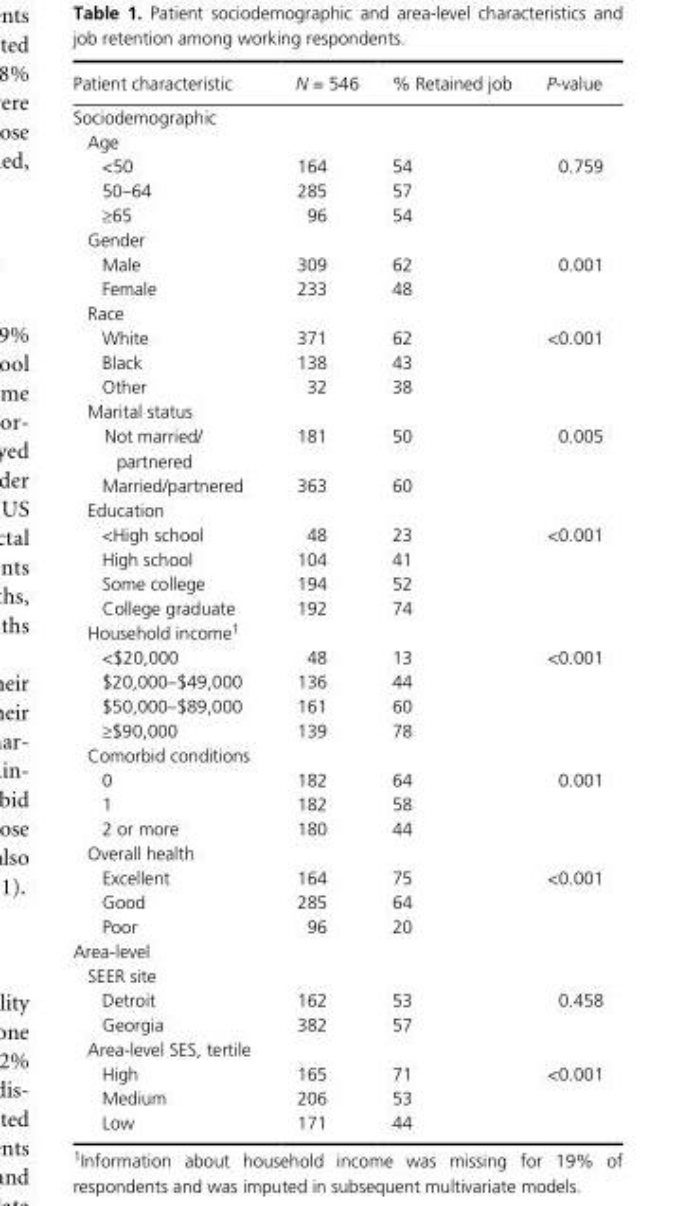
<table><thead><tr><td>Patient characteristic</td><td>N = 546</td><td>% Retained job</td><td>P- value</td></tr></thead><tbody><tr><td colspan="4">Sociodemographic</td></tr><tr><td colspan="4">Age</td></tr><tr><td>&lt;50</td><td>164</td><td>54</td><td rowspan="3">0.759</td></tr><tr><td>50–64</td><td>285</td><td>57</td></tr><tr><td>≥65</td><td>96</td><td>54</td></tr><tr><td colspan="4">Gender</td></tr><tr><td>Male</td><td>309</td><td>62</td><td rowspan="2">0.001</td></tr><tr><td>Female</td><td>233</td><td>48</td></tr><tr><td colspan="4">Race</td></tr><tr><td>White</td><td>371</td><td>62</td><td rowspan="3">&lt;0.001</td></tr><tr><td>Black</td><td>138</td><td>43</td></tr><tr><td>Other</td><td>32</td><td>38</td></tr><tr><td colspan="4">Marital status</td></tr><tr><td>Not married/ partnered</td><td>181</td><td>50</td><td rowspan="2">0.005</td></tr><tr><td>Married/partnered</td><td>363</td><td>60</td></tr><tr><td colspan="4">Education</td></tr><tr><td>&lt;High school</td><td>48</td><td>23</td><td rowspan="4">&lt;0.001</td></tr><tr><td>High school</td><td>104</td><td>41</td></tr><tr><td>Some college</td><td>194</td><td>52</td></tr><tr><td>College graduate</td><td>192</td><td>74</td></tr><tr><td colspan="4">Household income1</td></tr><tr><td>&lt;$20,000</td><td>48</td><td>13</td><td rowspan="4">&lt;0.001</td></tr><tr><td>$20,000–$49,000</td><td>136</td><td>44</td></tr><tr><td>$50,000–$89,000</td><td>161</td><td>60</td></tr><tr><td>≥$90,000</td><td>139</td><td>78</td></tr><tr><td colspan="4">Comorbid conditions</td></tr><tr><td>0</td><td>182</td><td>64</td><td rowspan="3">0.001</td></tr><tr><td>1</td><td>182</td><td>58</td></tr><tr><td>2 or more</td><td>180</td><td>44</td></tr><tr><td colspan="4">Overall health</td></tr><tr><td>Excellent</td><td>164</td><td>75</td><td rowspan="3">&lt;0.001</td></tr><tr><td>Good</td><td>285</td><td>64</td></tr><tr><td>Poor</td><td>96</td><td>20</td></tr><tr><td colspan="4">Area- level</td></tr><tr><td colspan="4">SEER site</td></tr><tr><td>Detroit</td><td>162</td><td>53</td><td rowspan="2">0.458</td></tr><tr><td>Georgia</td><td>382</td><td>57</td></tr><tr><td colspan="4">Area- level SES, tertile</td></tr><tr><td>High</td><td>165</td><td>71</td><td rowspan="3">&lt;0.001</td></tr><tr><td>Medium</td><td>206</td><td>53</td></tr><tr><td>Low</td><td>171</td><td>44</td></tr></tbody></table>